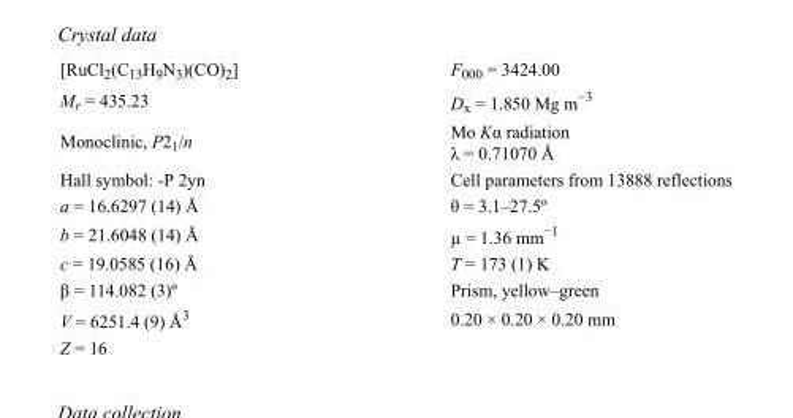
<table><tbody><tr><td>[RuCl<sub>2</sub>(C<sub>13</sub>H<sub>9</sub>N<sub>3</sub>)(CO)<sub>2</sub>]</td><td>F<sub>000</sub> = 3424.00</td></tr><tr><td>M<sub>r</sub> = 435.23</td><td>D<sub>x</sub> = 1.850 Mg m<sup>−3</sup></td></tr><tr><td>Monoclinic, P2<sub>1</sub>/n</td><td>Mo Kα radiation λ = 0.71070 Å</td></tr><tr><td>Hall symbol: -P 2yn</td><td>Cell parameters from 13888 reflections</td></tr><tr><td>a = 16.6297 (14) Å</td><td>θ = 3.1–27.5º</td></tr><tr><td>b = 21.6048 (14) Å</td><td>µ = 1.36 mm<sup>−1</sup></td></tr><tr><td>c = 19.0585 (16) Å</td><td>T = 173 (1) K</td></tr><tr><td>β = 114.082 (3)º</td><td>Prism, yellow–green</td></tr><tr><td>V = 6251.4 (9) Å<sup>3</sup></td><td>0.20 × 0.20 × 0.20 mm</td></tr><tr><td>Z = 16</td><td></td></tr></tbody></table>